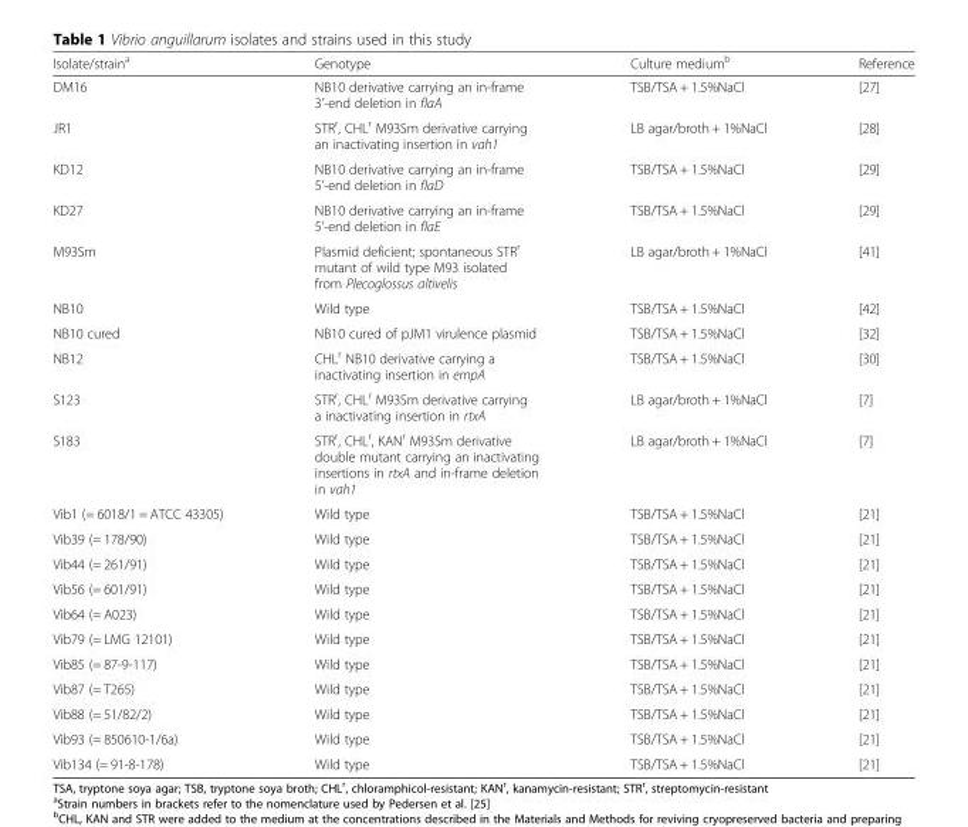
<table><thead><tr><td>Isolate/strain<sup>a</sup></td><td>Genotype</td><td>Culture medium<sup>b</sup></td><td>Reference</td></tr></thead><tbody><tr><td>DM16</td><td>NB10 derivative carrying an in-frame 3’-end deletion in flaA</td><td>TSB/TSA + 1.5%NaCl</td><td>[27]</td></tr><tr><td>JR1</td><td>STR<sup>r</sup>, CHL<sup>r</sup> M93Sm derivative carrying an inactivating insertion in vah1</td><td>LB agar/broth + 1%NaCl</td><td>[28]</td></tr><tr><td>KD12</td><td>NB10 derivative carrying an in-frame 5’-end deletion in flaD</td><td>TSB/TSA + 1.5%NaCl</td><td>[29]</td></tr><tr><td>KD27</td><td>NB10 derivative carrying an in-frame 5’-end deletion in flaE</td><td>TSB/TSA + 1.5%NaCl</td><td>[29]</td></tr><tr><td>M93Sm</td><td>Plasmid deficient; spontaneous STR<sup>r</sup> mutant of wild type M93 isolated from Plecoglossus altivelis</td><td>LB agar/broth + 1%NaCl</td><td>[41]</td></tr><tr><td>NB10</td><td>Wild type</td><td>TSB/TSA + 1.5%NaCl</td><td>[42]</td></tr><tr><td>NB10 cured</td><td>NB10 cured of pJM1 virulence plasmid</td><td>TSB/TSA + 1.5%NaCl</td><td>[32]</td></tr><tr><td>NB12</td><td>CHL<sup>r</sup> NB10 derivative carrying a inactivating insertion in empA</td><td>TSB/TSA + 1.5%NaCl</td><td>[30]</td></tr><tr><td>S123</td><td>STR<sup>r</sup>, CHL<sup>r</sup> M93Sm derivative carrying a inactivating insertion in rtxA</td><td>LB agar/broth + 1%NaCl</td><td>[7]</td></tr><tr><td>S183</td><td>STR<sup>r</sup>, CHL<sup>r</sup>, KAN<sup>r</sup> M93Sm derivative double mutant carrying an inactivating insertions in rtxA and in-frame deletion in vah1</td><td>LB agar/broth + 1%NaCl</td><td>[7]</td></tr><tr><td>Vib1 (= 6018/1 = ATCC 43305)</td><td>Wild type</td><td>TSB/TSA + 1.5%NaCl</td><td>[21]</td></tr><tr><td>Vib39 (= 178/90)</td><td>Wild type</td><td>TSB/TSA + 1.5%NaCl</td><td>[21]</td></tr><tr><td>Vib44 (= 261/91)</td><td>Wild type</td><td>TSB/TSA + 1.5%NaCl</td><td>[21]</td></tr><tr><td>Vib56 (= 601/91)</td><td>Wild type</td><td>TSB/TSA + 1.5%NaCl</td><td>[21]</td></tr><tr><td>Vib64 (= A023)</td><td>Wild type</td><td>TSB/TSA + 1.5%NaCl</td><td>[21]</td></tr><tr><td>Vib79 (= LMG 12101)</td><td>Wild type</td><td>TSB/TSA + 1.5%NaCl</td><td>[21]</td></tr><tr><td>Vib85 (= 87-9-117)</td><td>Wild type</td><td>TSB/TSA + 1.5%NaCl</td><td>[21]</td></tr><tr><td>Vib87 (= T265)</td><td>Wild type</td><td>TSB/TSA + 1.5%NaCl</td><td>[21]</td></tr><tr><td>Vib88 (= 51/82/2)</td><td>Wild type</td><td>TSB/TSA + 1.5%NaCl</td><td>[21]</td></tr><tr><td>Vib93 (= 850610-1/6a)</td><td>Wild type</td><td>TSB/TSA + 1.5%NaCl</td><td>[21]</td></tr><tr><td>Vib134 (= 91-8-178)</td><td>Wild type</td><td>TSB/TSA + 1.5%NaCl</td><td>[21]</td></tr></tbody></table>